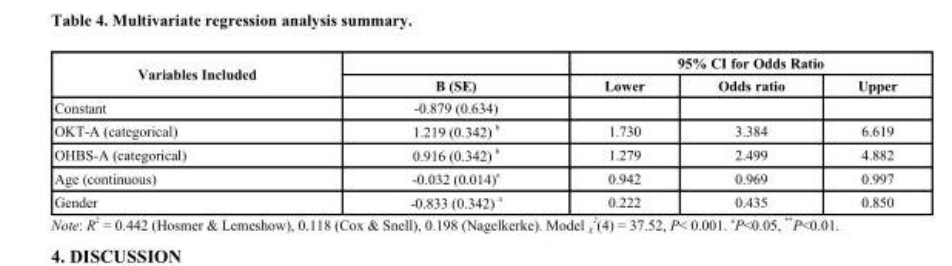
<table><thead><tr><td rowspan="2">Variables Included</td><td rowspan="2">B (SE)</td><td colspan="3">95% CI for Odds Ratio</td></tr><tr><td>Lower</td><td>Odds ratio</td><td>Upper</td></tr></thead><tbody><tr><td>Constant</td><td>-0.879 (0.634)</td><td></td><td></td><td></td></tr><tr><td>OKT-A (categorical)</td><td>1.219 (0.342) <sup>b</sup></td><td>1.730</td><td>3.384</td><td>6.619</td></tr><tr><td>OHBS-A (categorical)</td><td>0.916 (0.342) <sup>b</sup></td><td>1.279</td><td>2.499</td><td>4.882</td></tr><tr><td>Age (continuous)</td><td>-0.032 (0.014) <sup>a</sup></td><td>0.942</td><td>0.969</td><td>0.997</td></tr><tr><td>Gender</td><td>-0.833 (0.342) <sup>a</sup></td><td>0.222</td><td>0.435</td><td>0.850</td></tr></tbody></table>